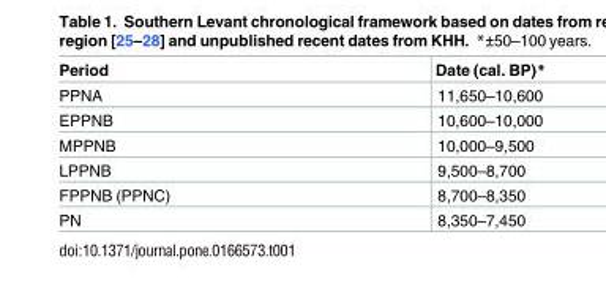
<table><thead><tr><td>Period</td><td>Date (cal. BP)*</td></tr></thead><tbody><tr><td>PPNA</td><td>11,650–10,600</td></tr><tr><td>EPPNB</td><td>10,600–10,000</td></tr><tr><td>MPPNB</td><td>10,000–9,500</td></tr><tr><td>LPPNB</td><td>9,500–8,700</td></tr><tr><td>FPPNB (PPNC)</td><td>8,700–8,350</td></tr><tr><td>PN</td><td>8,350–7,450</td></tr></tbody></table>